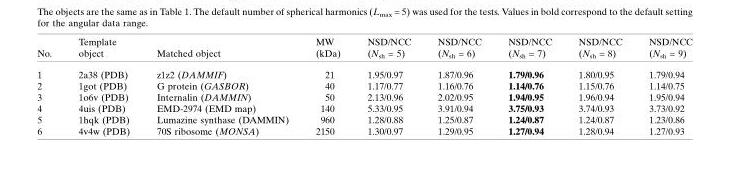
<table><thead><tr><td>No.</td><td>Template object</td><td>Matched object</td><td>MW (kDa)</td><td>NSD/NCC (N<sub>sh</sub> = 5)</td><td>NSD/NCC (N<sub>sh</sub> = 6)</td><td>NSD/NCC (N<sub>sh</sub> = 7)</td><td>NSD/NCC (N<sub>sh</sub> = 8)</td><td>NSD/NCC (N<sub>sh</sub> = 9)</td></tr></thead><tbody><tr><td>1</td><td>2a38 (PDB)</td><td>z1z2 (DAMMIF)</td><td>21</td><td>1.95/0.97</td><td>1.87/0.96</td><td>1.79/0.96</td><td>1.80/0.95</td><td>1.79/0.94</td></tr><tr><td>2</td><td>1got (PDB)</td><td>G protein (GASBOR)</td><td>40</td><td>1.17/0.77</td><td>1.16/0.76</td><td>1.14/0.76</td><td>1.15/0.76</td><td>1.14/0.75</td></tr><tr><td>3</td><td>1o6v (PDB)</td><td>Internalin (DAMMIN)</td><td>50</td><td>2.13/0.96</td><td>2.02/0.95</td><td>1.94/0.95</td><td>1.96/0.94</td><td>1.95/0.94</td></tr><tr><td>4</td><td>4uis (PDB)</td><td>EMD-2974 (EMD map)</td><td>140</td><td>5.33/0.95</td><td>3.91/0.94</td><td>3.75/0.93</td><td>3.74/0.93</td><td>3.73/0.92</td></tr><tr><td>5</td><td>1hqk (PDB)</td><td>Lumazine synthase (DAMMIN)</td><td>960</td><td>1.28/0.88</td><td>1.25/0.87</td><td>1.24/0.87</td><td>1.24/0.87</td><td>1.23/0.86</td></tr><tr><td>6</td><td>4v4w (PDB)</td><td>70S ribosome (MONSA)</td><td>2150</td><td>1.30/0.97</td><td>1.29/0.95</td><td>1.27/0.94</td><td>1.28/0.94</td><td>1.27/0.93</td></tr></tbody></table>